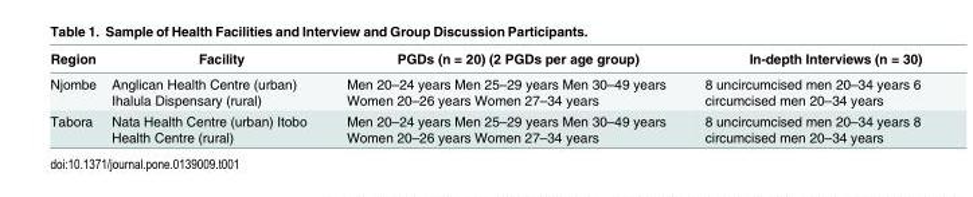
<table><thead><tr><td>Region</td><td>Facility</td><td>PGDs (n = 20) (2 PGDs per age group)</td><td>In-depth Interviews (n = 30)</td></tr></thead><tbody><tr><td>Njombe</td><td>Anglican Health Centre (urban) Ihalula Dispensary (rural)</td><td>Men 20–24 years Men 25–29 years Men 30–49 years Women 20–26 years Women 27–34 years</td><td>8 uncircumcised men 20–34 years 6 circumcised men 20–34 years</td></tr><tr><td>Tabora</td><td>Nata Health Centre (urban) Itobo Health Centre (rural)</td><td>Men 20–24 years Men 25–29 years Men 30–49 years Women 20–26 years Women 27–34 years</td><td>8 uncircumcised men 20–34 years 8 circumcised men 20–34 years</td></tr></tbody></table>